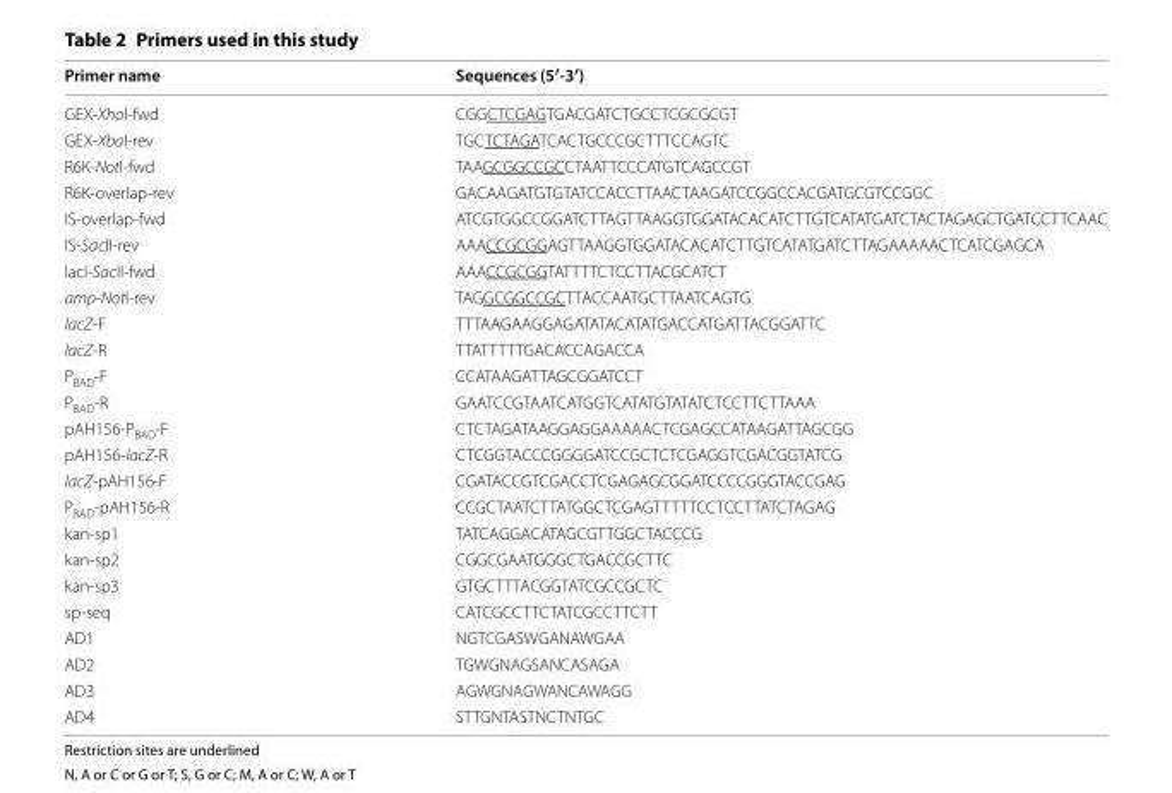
<table><thead><tr><td>Primer name</td><td>Sequences (5′‑3′)</td></tr></thead><tbody><tr><td>GEX‑XhoI‑fwd</td><td>CGGCTCGAGTGACGATCTGCCTCGCGCGT</td></tr><tr><td>GEX‑XbaI‑rev</td><td>TGCTCTAGATCACTGCCCGCTTTCCAGTC</td></tr><tr><td>R6K‑NotI‑fwd</td><td>TAAGCGGCCGCCTAATTCCCATGTCAGCCGT</td></tr><tr><td>R6K‑overlap‑rev</td><td>GACAAGATGTGTATCCACCTTAACTAAGATCCGGCCACGATGCGTCCGGC</td></tr><tr><td>IS‑overlap‑fwd</td><td>ATCGTGGCCGGATCTTAGTTAAGGTGGATACACATCTTGTCATATGATCTACTAGAGCTGATCCTTCAAC</td></tr><tr><td>IS‑SacII‑rev</td><td>AAACCGCGGAGTTAAGGTGGATACACATCTTGTCATATGATCTTAGAAAAACTCATCGAGCA</td></tr><tr><td>lacI‑SacII‑fwd</td><td>AAACCGCGGTATTTTCTCCTTACGCATCT</td></tr><tr><td>amp‑NotI‑rev</td><td>TAGGCGGCCGCTTACCAATGCTTAATCAGTG</td></tr><tr><td>lacZ‑F</td><td>TTTAAGAAGGAGATATACATATGACCATGATTACGGATTC</td></tr><tr><td>lacZ‑R</td><td>TTATTTTTGACACCAGACCA</td></tr><tr><td>P<sub>BAD</sub>‑F</td><td>CCATAAGATTAGCGGATCCT</td></tr><tr><td>P<sub>BAD</sub>‑R</td><td>GAATCCGTAATCATGGTCATATGTATATCTCCTTCTTAAA</td></tr><tr><td>pAH156‑P<sub>BAD</sub>‑F</td><td>CTCTAGATAAGGAGGAAAAACTCGAGCCATAAGATTAGCGG</td></tr><tr><td>pAH156‑lacZ‑R</td><td>CTCGGTACCCGGGGATCCGCTCTCGAGGTCGACGGTATCG</td></tr><tr><td>lacZ‑pAH156‑F</td><td>CGATACCGTCGACCTCGAGAGCGGATCCCCGGGTACCGAG</td></tr><tr><td>P<sub>BAD</sub>‑pAH156‑R</td><td>CCGCTAATCTTATGGCTCGAGTTTTTCCTCCTTATCTAGAG</td></tr><tr><td>kan‑sp1</td><td>TATCAGGACATAGCGTTGGCTACCCG</td></tr><tr><td>kan‑sp2</td><td>CGGCGAATGGGCTGACCGCTTC</td></tr><tr><td>kan‑sp3</td><td>GTGCTTTACGGTATCGCCGCTC</td></tr><tr><td>sp‑seq</td><td>CATCGCCTTCTATCGCCTTCTT</td></tr><tr><td>AD1</td><td>NGTCGASWGANAWGAA</td></tr><tr><td>AD2</td><td>TGWGNAGSANCASAGA</td></tr><tr><td>AD3</td><td>AGWGNAGWANCAWAGG</td></tr><tr><td>AD4</td><td>STTGNTASTNCTNTGC</td></tr></tbody></table>